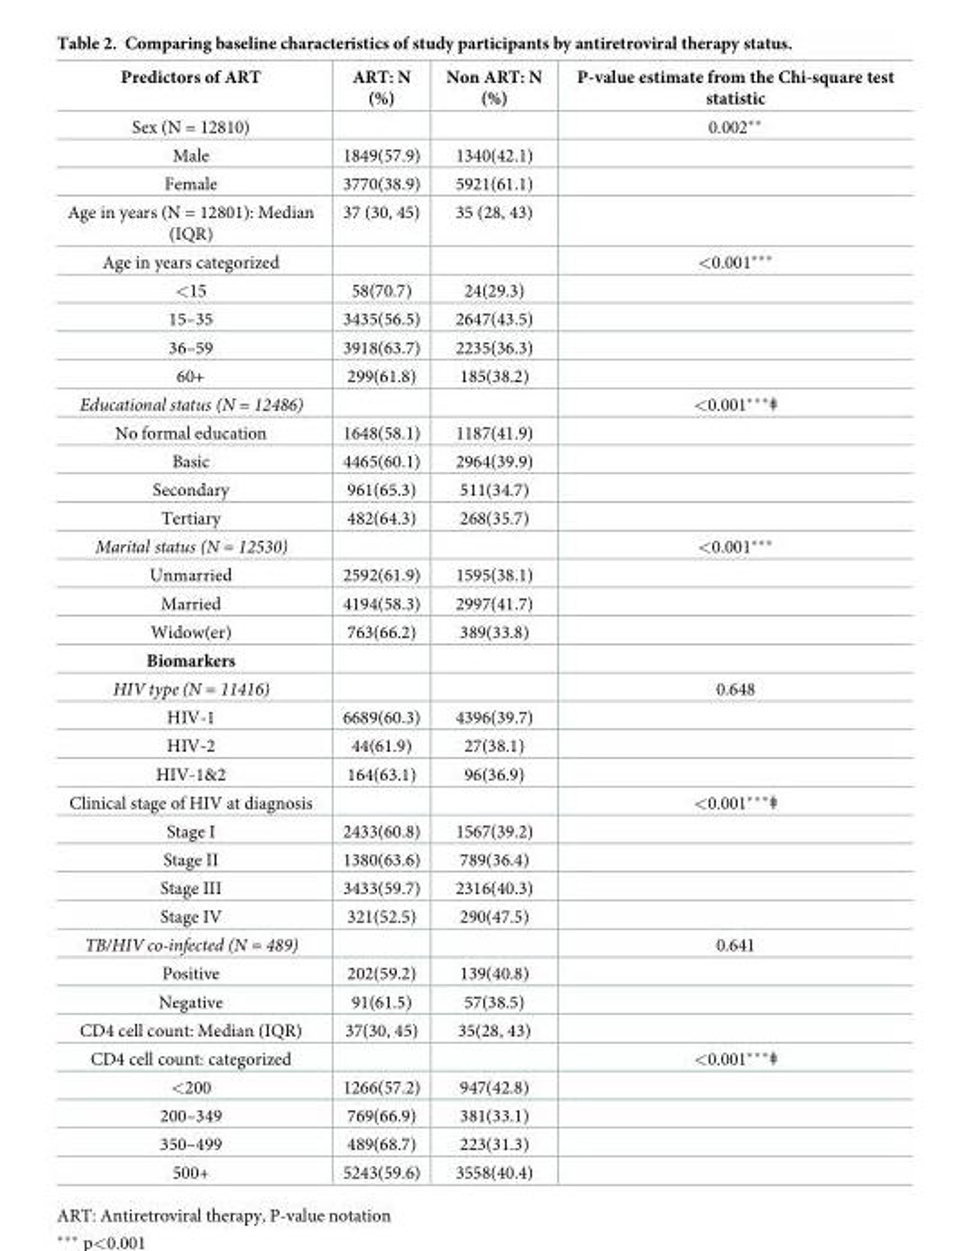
<table><thead><tr><td>Predictors of ART</td><td>ART: N (%)</td><td>Non ART: N (%)</td><td>P-value estimate from the Chi-square test statistic</td></tr></thead><tbody><tr><td>Sex (N = 12810)</td><td></td><td></td><td>0.002**</td></tr><tr><td>Male</td><td>1849(57.9)</td><td>1340(42.1)</td><td></td></tr><tr><td>Female</td><td>3770(38.9)</td><td>5921(61.1)</td><td></td></tr><tr><td>Age in years (N = 12801): Median (IQR)</td><td>37 (30, 45)</td><td>35 (28, 43)</td><td></td></tr><tr><td>Age in years categorized</td><td></td><td></td><td>&lt;0.001***</td></tr><tr><td>&lt;15</td><td>58(70.7)</td><td>24(29.3)</td><td></td></tr><tr><td>15–35</td><td>3435(56.5)</td><td>2647(43.5)</td><td></td></tr><tr><td>36–59</td><td>3918(63.7)</td><td>2235(36.3)</td><td></td></tr><tr><td>60+</td><td>299(61.8)</td><td>185(38.2)</td><td></td></tr><tr><td>Educational status (N = 12486)</td><td></td><td></td><td>&lt;0.001***ǂ</td></tr><tr><td>No formal education</td><td>1648(58.1)</td><td>1187(41.9)</td><td></td></tr><tr><td>Basic</td><td>4465(60.1)</td><td>2964(39.9)</td><td></td></tr><tr><td>Secondary</td><td>961(65.3)</td><td>511(34.7)</td><td></td></tr><tr><td>Tertiary</td><td>482(64.3)</td><td>268(35.7)</td><td></td></tr><tr><td>Marital status (N = 12530)</td><td></td><td></td><td>&lt;0.001***</td></tr><tr><td>Unmarried</td><td>2592(61.9)</td><td>1595(38.1)</td><td></td></tr><tr><td>Married</td><td>4194(58.3)</td><td>2997(41.7)</td><td></td></tr><tr><td>Widow(er)</td><td>763(66.2)</td><td>389(33.8)</td><td></td></tr><tr><td colspan="4">Biomarkers</td></tr><tr><td>HIV type (N = 11416)</td><td></td><td></td><td>0.648</td></tr><tr><td>HIV-1</td><td>6689(60.3)</td><td>4396(39.7)</td><td></td></tr><tr><td>HIV-2</td><td>44(61.9)</td><td>27(38.1)</td><td></td></tr><tr><td>HIV-1&amp;2</td><td>164(63.1)</td><td>96(36.9)</td><td></td></tr><tr><td>Clinical stage of HIV at diagnosis</td><td></td><td></td><td>&lt;0.001***ǂ</td></tr><tr><td>Stage I</td><td>2433(60.8)</td><td>1567(39.2)</td><td></td></tr><tr><td>Stage II</td><td>1380(63.6)</td><td>789(36.4)</td><td></td></tr><tr><td>Stage III</td><td>3433(59.7)</td><td>2316(40.3)</td><td></td></tr><tr><td>Stage IV</td><td>321(52.5)</td><td>290(47.5)</td><td></td></tr><tr><td>TB/HIV co-infected (N = 489)</td><td></td><td></td><td>0.641</td></tr><tr><td>Positive</td><td>202(59.2)</td><td>139(40.8)</td><td></td></tr><tr><td>Negative</td><td>91(61.5)</td><td>57(38.5)</td><td></td></tr><tr><td>CD4 cell count: Median (IQR)</td><td>37(30, 45)</td><td>35(28, 43)</td><td></td></tr><tr><td>CD4 cell count: categorized</td><td></td><td></td><td>&lt;0.001***ǂ</td></tr><tr><td>&lt;200</td><td>1266(57.2)</td><td>947(42.8)</td><td></td></tr><tr><td>200–349</td><td>769(66.9)</td><td>381(33.1)</td><td></td></tr><tr><td>350–499</td><td>489(68.7)</td><td>223(31.3)</td><td></td></tr><tr><td>500+</td><td>5243(59.6)</td><td>3558(40.4)</td><td></td></tr></tbody></table>